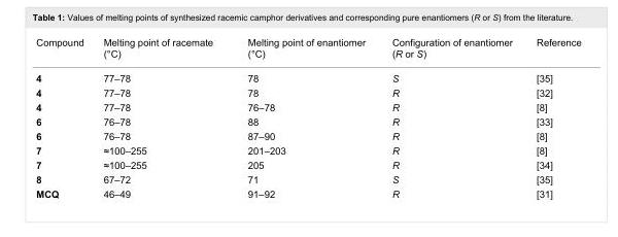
<table><tbody><tr><td>Compound</td><td>Melting point of racemate (°C)</td><td>Melting point of enantiomer (°C)</td><td>Configuration of enantiomer (R or S)</td><td>Reference</td></tr><tr><td>4</td><td>77–78</td><td>78</td><td>S</td><td>[35]</td></tr><tr><td>4</td><td>77–78</td><td>78</td><td>R</td><td>[32]</td></tr><tr><td>4</td><td>77–78</td><td>76–78</td><td>R</td><td>[8]</td></tr><tr><td>6</td><td>76–78</td><td>88</td><td>R</td><td>[33]</td></tr><tr><td>6</td><td>76–78</td><td>87–90</td><td>R</td><td>[8]</td></tr><tr><td>7</td><td>≈100–255</td><td>201–203</td><td>R</td><td>[8]</td></tr><tr><td>7</td><td>≈100–255</td><td>205</td><td>R</td><td>[34]</td></tr><tr><td>8</td><td>67–72</td><td>71</td><td>S</td><td>[35]</td></tr><tr><td>MCQ</td><td>46–49</td><td>91–92</td><td>R</td><td>[31]</td></tr></tbody></table>